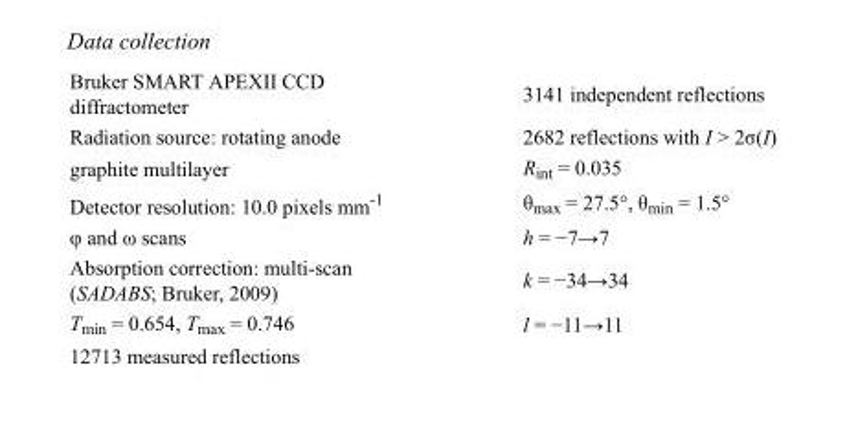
<table><tbody><tr><td>Bruker SMART APEXII CCD diffractometer</td><td>3141 independent reflections</td></tr><tr><td>Radiation source: rotating anode</td><td>2682 reflections with I &gt; 2σ(I)</td></tr><tr><td>graphite multilayer</td><td>R<sub>int</sub> = 0.035</td></tr><tr><td>Detector resolution: 10.0 pixels mm<sup>-1</sup></td><td>θ<sub>max</sub> = 27.5°, θ<sub>min</sub> = 1.5°</td></tr><tr><td>φ and ω scans</td><td>h = −7→7</td></tr><tr><td>Absorption correction: multi-scan (SADABS; Bruker, 2009)</td><td>k = −34→34</td></tr><tr><td>T<sub>min</sub> = 0.654, T<sub>max</sub> = 0.746</td><td>l = −11→11</td></tr><tr><td>12713 measured reflections</td><td></td></tr></tbody></table>